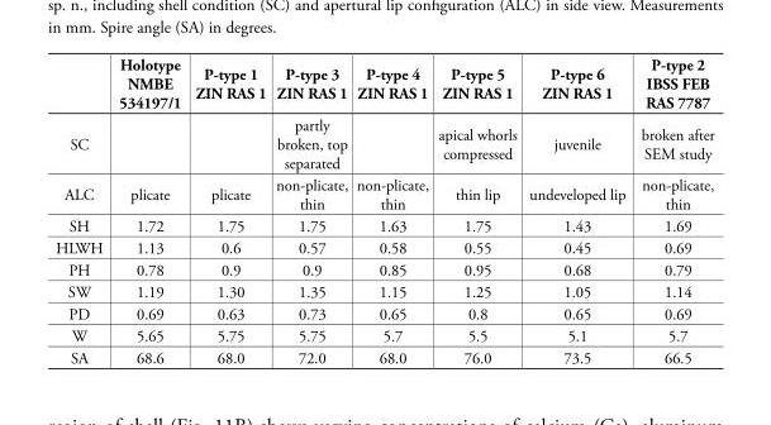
<table><thead><tr><td></td><td>Holotype NMBE 534197/1</td><td>P-type 1 ZIN RAS 1</td><td>P-type 3 ZIN RAS 1</td><td>P-type 4 ZIN RAS 1</td><td>P-type 5 ZIN RAS 1</td><td>P-type 6 ZIN RAS 1</td><td>P-type 2 IBSS FEB RAS 7787</td></tr></thead><tbody><tr><td>SC</td><td></td><td></td><td>partly broken, top separated</td><td></td><td>apical whorls compressed</td><td>juvenile</td><td>broken after SEM study</td></tr><tr><td>ALC</td><td>plicate</td><td>plicate</td><td>non-plicate, thin</td><td>non-plicate, thin</td><td>thin lip</td><td>undeveloped lip</td><td>non-plicate, thin</td></tr><tr><td>SH</td><td>1.72</td><td>1.75</td><td>1.75</td><td>1.63</td><td>1.75</td><td>1.43</td><td>1.69</td></tr><tr><td>HLWH</td><td>1.13</td><td>0.6</td><td>0.57</td><td>0.58</td><td>0.55</td><td>0.45</td><td>0.69</td></tr><tr><td>PH</td><td>0.78</td><td>0.9</td><td>0.9</td><td>0.85</td><td>0.95</td><td>0.68</td><td>0.79</td></tr><tr><td>SW</td><td>1.19</td><td>1.30</td><td>1.35</td><td>1.15</td><td>1.25</td><td>1.05</td><td>1.14</td></tr><tr><td>PD</td><td>0.69</td><td>0.63</td><td>0.73</td><td>0.65</td><td>0.8</td><td>0.65</td><td>0.69</td></tr><tr><td>W</td><td>5.65</td><td>5.75</td><td>5.75</td><td>5.7</td><td>5.5</td><td>5.1</td><td>5.7</td></tr><tr><td>SA</td><td>68.6</td><td>68.0</td><td>72.0</td><td>68.0</td><td>76.0</td><td>73.5</td><td>66.5</td></tr></tbody></table>